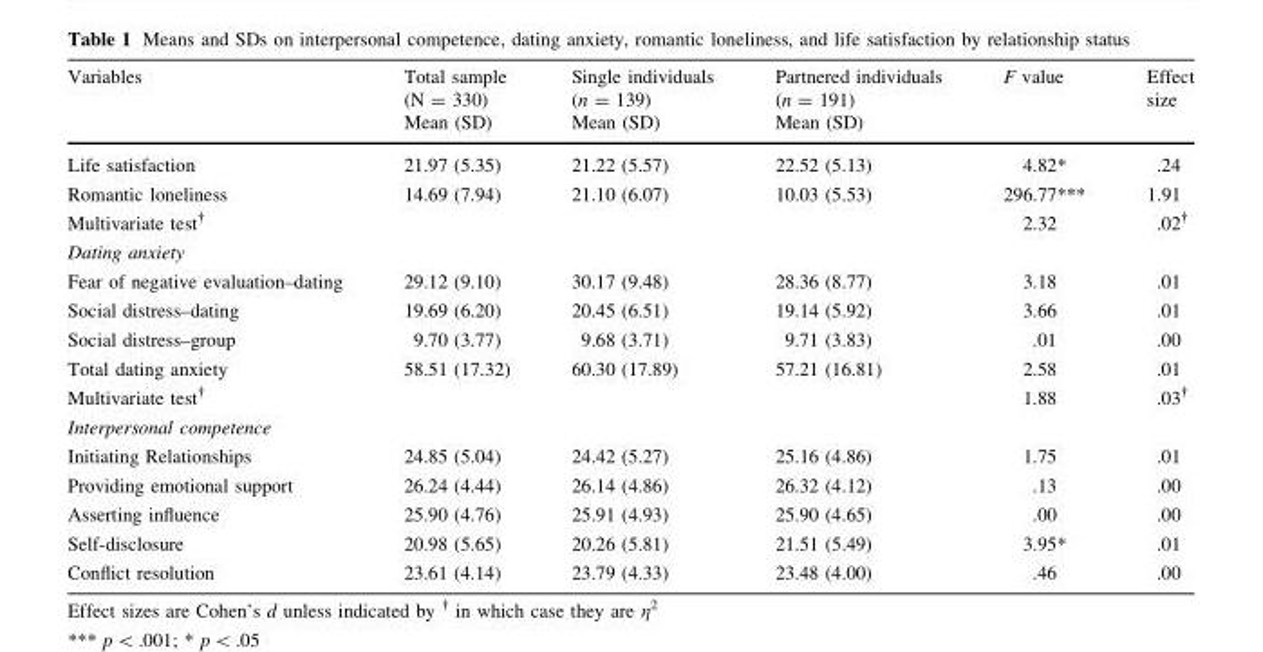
<table><thead><tr><td>Variables</td><td>Total sample (N = 330) Mean (SD)</td><td>Single individuals (n = 139) Mean (SD)</td><td>Partnered individuals (n = 191) Mean (SD)</td><td>F value</td><td>Effect size</td></tr></thead><tbody><tr><td>Life satisfaction</td><td>21.97 (5.35)</td><td>21.22 (5.57)</td><td>22.52 (5.13)</td><td>4.82*</td><td>.24</td></tr><tr><td>Romantic loneliness</td><td>14.69 (7.94)</td><td>21.10 (6.07)</td><td>10.03 (5.53)</td><td>296.77***</td><td>1.91</td></tr><tr><td>Multivariate test<sup>†</sup></td><td></td><td></td><td></td><td>2.32</td><td>.02<sup>†</sup></td></tr><tr><td colspan="6">Dating anxiety</td></tr><tr><td>Fear of negative evaluation–dating</td><td>29.12 (9.10)</td><td>30.17 (9.48)</td><td>28.36 (8.77)</td><td>3.18</td><td>.01</td></tr><tr><td>Social distress–dating</td><td>19.69 (6.20)</td><td>20.45 (6.51)</td><td>19.14 (5.92)</td><td>3.66</td><td>.01</td></tr><tr><td>Social distress–group</td><td>9.70 (3.77)</td><td>9.68 (3.71)</td><td>9.71 (3.83)</td><td>.01</td><td>.00</td></tr><tr><td>Total dating anxiety</td><td>58.51 (17.32)</td><td>60.30 (17.89)</td><td>57.21 (16.81)</td><td>2.58</td><td>.01</td></tr><tr><td>Multivariate test<sup>†</sup></td><td></td><td></td><td></td><td>1.88</td><td>.03<sup>†</sup></td></tr><tr><td colspan="6">Interpersonal competence</td></tr><tr><td>Initiating Relationships</td><td>24.85 (5.04)</td><td>24.42 (5.27)</td><td>25.16 (4.86)</td><td>1.75</td><td>.01</td></tr><tr><td>Providing emotional support</td><td>26.24 (4.44)</td><td>26.14 (4.86)</td><td>26.32 (4.12)</td><td>.13</td><td>.00</td></tr><tr><td>Asserting influence</td><td>25.90 (4.76)</td><td>25.91 (4.93)</td><td>25.90 (4.65)</td><td>.00</td><td>.00</td></tr><tr><td>Self-disclosure</td><td>20.98 (5.65)</td><td>20.26 (5.81)</td><td>21.51 (5.49)</td><td>3.95*</td><td>.01</td></tr><tr><td>Conflict resolution</td><td>23.61 (4.14)</td><td>23.79 (4.33)</td><td>23.48 (4.00)</td><td>.46</td><td>.00</td></tr></tbody></table>